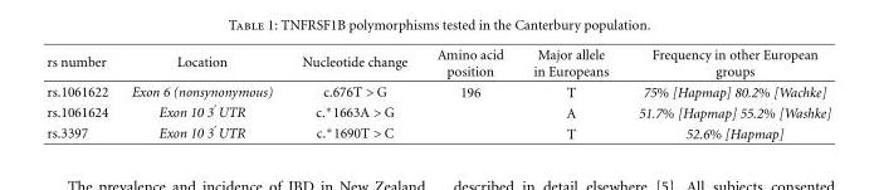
<table><thead><tr><td>rs number</td><td>Location</td><td>Nucleotide change</td><td>Amino acid position</td><td>Major allele in Europeans</td><td>Frequency in other European groups</td></tr></thead><tbody><tr><td>rs.1061622</td><td>Exon 6 (nonsynonymous)</td><td>c.676T &gt; G</td><td>196</td><td>T</td><td>75% [Hapmap] 80.2% [Wachke]</td></tr><tr><td>rs.1061624</td><td>Exon 10 3 ′UTR</td><td>c.∗1663A &gt; G</td><td></td><td>A</td><td>51.7% [Hapmap] 55.2% [Washke]</td></tr><tr><td>rs.3397</td><td>Exon 10 3 ′UTR</td><td>c.∗1690T &gt; C</td><td></td><td>T</td><td>52.6% [Hapmap]</td></tr></tbody></table>